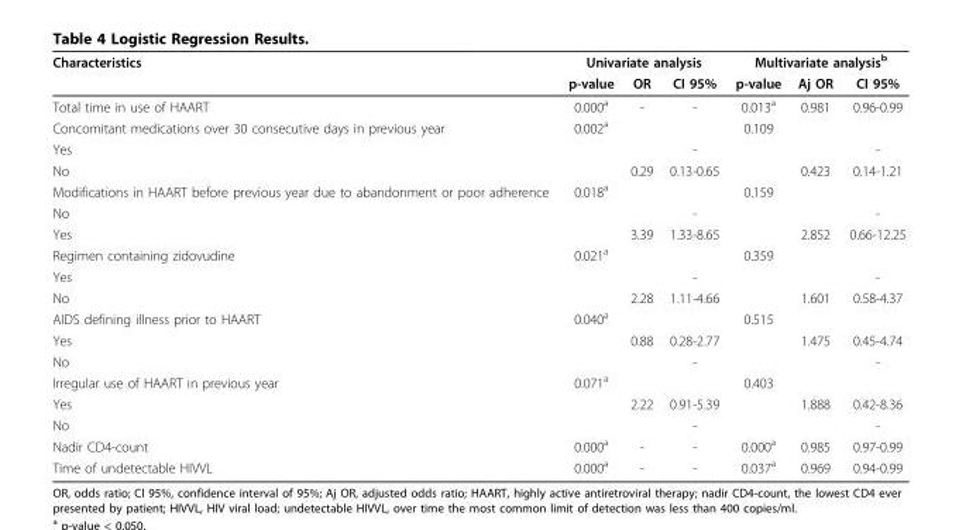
<table><thead><tr><td rowspan="2">Characteristics</td><td colspan="3">Univariate analysis</td><td colspan="3">Multivariate analysis<sup>b</sup></td></tr><tr><td>p-value</td><td>OR</td><td>CI 95%</td><td>p-value</td><td>Aj OR</td><td>CI 95%</td></tr></thead><tbody><tr><td>Total time in use of HAART</td><td>0.000<sup>a</sup></td><td>-</td><td>-</td><td>0.013<sup>a</sup></td><td>0.981</td><td>0.96-0.99</td></tr><tr><td>Concomitant medications over 30 consecutive days in previous year</td><td>0.002<sup>a</sup></td><td></td><td></td><td>0.109</td><td></td><td></td></tr><tr><td>Yes</td><td></td><td></td><td>-</td><td></td><td></td><td>-</td></tr><tr><td>No</td><td></td><td>0.29</td><td>0.13-0.65</td><td></td><td>0.423</td><td>0.14-1.21</td></tr><tr><td>Modifications in HAART before previous year due to abandonment or poor adherence</td><td>0.018<sup>a</sup></td><td></td><td></td><td>0.159</td><td></td><td></td></tr><tr><td>No</td><td></td><td></td><td>-</td><td></td><td></td><td>-</td></tr><tr><td>Yes</td><td></td><td>3.39</td><td>1.33-8.65</td><td></td><td>2.852</td><td>0.66-12.25</td></tr><tr><td>Regimen containing zidovudine</td><td>0.021<sup>a</sup></td><td></td><td></td><td>0.359</td><td></td><td></td></tr><tr><td>Yes</td><td></td><td></td><td>-</td><td></td><td></td><td>-</td></tr><tr><td>No</td><td></td><td>2.28</td><td>1.11-4.66</td><td></td><td>1.601</td><td>0.58-4.37</td></tr><tr><td>AIDS defining illness prior to HAART</td><td>0.040<sup>a</sup></td><td></td><td></td><td>0.515</td><td></td><td></td></tr><tr><td>Yes</td><td></td><td>0.88</td><td>0.28-2.77</td><td></td><td>1.475</td><td>0.45-4.74</td></tr><tr><td>No</td><td></td><td></td><td>-</td><td></td><td></td><td>-</td></tr><tr><td>Irregular use of HAART in previous year</td><td>0.071<sup>a</sup></td><td></td><td></td><td>0.403</td><td></td><td></td></tr><tr><td>Yes</td><td></td><td>2.22</td><td>0.91-5.39</td><td></td><td>1.888</td><td>0.42-8.36</td></tr><tr><td>No</td><td></td><td></td><td>-</td><td></td><td></td><td>-</td></tr><tr><td>Nadir CD4-count</td><td>0.000<sup>a</sup></td><td>-</td><td>-</td><td>0.000<sup>a</sup></td><td>0.985</td><td>0.97-0.99</td></tr><tr><td>Time of undetectable HIVVL</td><td>0.000<sup>a</sup></td><td>-</td><td>-</td><td>0.037<sup>a</sup></td><td>0.969</td><td>0.94-0.99</td></tr></tbody></table>